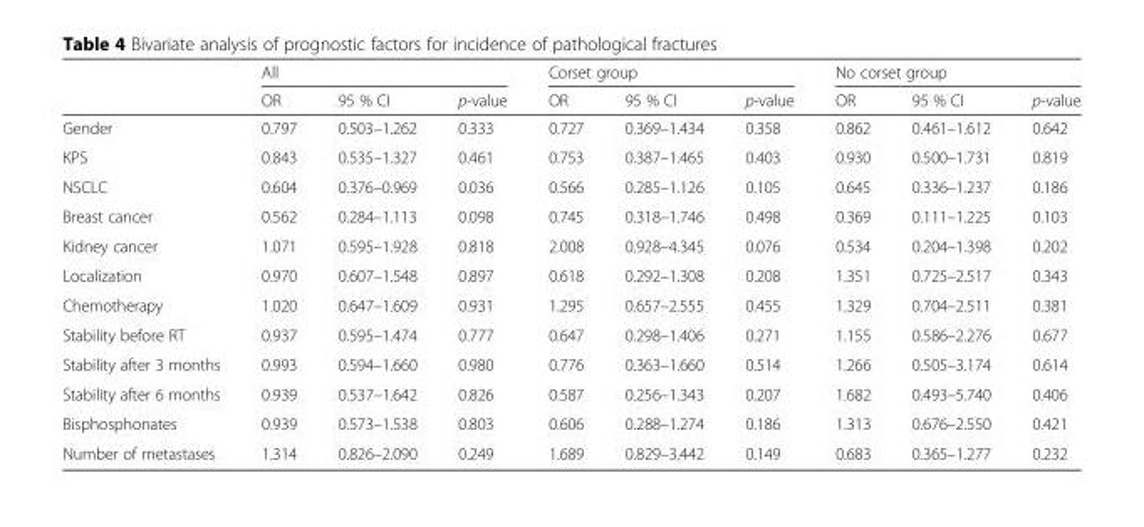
<table><thead><tr><td rowspan="2"></td><td colspan="3">All</td><td colspan="3">Corset group</td><td colspan="3">No corset group</td></tr><tr><td>OR</td><td>95 % CI</td><td>p-value</td><td>OR</td><td>95 % CI</td><td>p-value</td><td>OR</td><td>95 % CI</td><td>p-value</td></tr></thead><tbody><tr><td>Gender</td><td>0.797</td><td>0.503–1.262</td><td>0.333</td><td>0.727</td><td>0.369–1.434</td><td>0.358</td><td>0.862</td><td>0.461–1.612</td><td>0.642</td></tr><tr><td>KPS</td><td>0.843</td><td>0.535–1.327</td><td>0.461</td><td>0.753</td><td>0.387–1.465</td><td>0.403</td><td>0.930</td><td>0.500–1.731</td><td>0.819</td></tr><tr><td>NSCLC</td><td>0.604</td><td>0.376–0.969</td><td>0.036</td><td>0.566</td><td>0.285–1.126</td><td>0.105</td><td>0.645</td><td>0.336–1.237</td><td>0.186</td></tr><tr><td>Breast cancer</td><td>0.562</td><td>0.284–1.113</td><td>0.098</td><td>0.745</td><td>0.318–1.746</td><td>0.498</td><td>0.369</td><td>0.111–1.225</td><td>0.103</td></tr><tr><td>Kidney cancer</td><td>1.071</td><td>0.595–1.928</td><td>0.818</td><td>2.008</td><td>0.928–4.345</td><td>0.076</td><td>0.534</td><td>0.204–1.398</td><td>0.202</td></tr><tr><td>Localization</td><td>0.970</td><td>0.607–1.548</td><td>0.897</td><td>0.618</td><td>0.292–1.308</td><td>0.208</td><td>1.351</td><td>0.725–2.517</td><td>0.343</td></tr><tr><td>Chemotherapy</td><td>1.020</td><td>0.647–1.609</td><td>0.931</td><td>1.295</td><td>0.657–2.555</td><td>0.455</td><td>1.329</td><td>0.704–2.511</td><td>0.381</td></tr><tr><td>Stability before RT</td><td>0.937</td><td>0.595–1.474</td><td>0.777</td><td>0.647</td><td>0.298–1.406</td><td>0.271</td><td>1.155</td><td>0.586–2.276</td><td>0.677</td></tr><tr><td>Stability after 3 months</td><td>0.993</td><td>0.594–1.660</td><td>0.980</td><td>0.776</td><td>0.363–1.660</td><td>0.514</td><td>1.266</td><td>0.505–3.174</td><td>0.614</td></tr><tr><td>Stability after 6 months</td><td>0.939</td><td>0.537–1.642</td><td>0.826</td><td>0.587</td><td>0.256–1.343</td><td>0.207</td><td>1.682</td><td>0.493–5.740</td><td>0.406</td></tr><tr><td>Bisphosphonates</td><td>0.939</td><td>0.573–1.538</td><td>0.803</td><td>0.606</td><td>0.288–1.274</td><td>0.186</td><td>1.313</td><td>0.676–2.550</td><td>0.421</td></tr><tr><td>Number of metastases</td><td>1.314</td><td>0.826–2.090</td><td>0.249</td><td>1.689</td><td>0.829–3.442</td><td>0.149</td><td>0.683</td><td>0.365–1.277</td><td>0.232</td></tr></tbody></table>